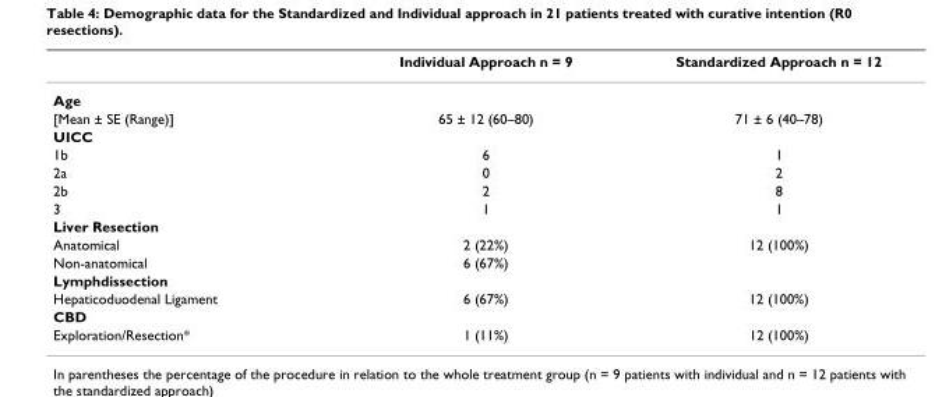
<table><thead><tr><td></td><td>Individual Approach n = 9</td><td>Standardized Approach n = 12</td></tr></thead><tbody><tr><td colspan="3">Age</td></tr><tr><td>[Mean ± SE (Range)]</td><td>65 ± 12 (60–80)</td><td>71 ± 6 (40–78)</td></tr><tr><td colspan="3">UICC</td></tr><tr><td>1b</td><td>6</td><td>1</td></tr><tr><td>2a</td><td>0</td><td>2</td></tr><tr><td>2b</td><td>2</td><td>8</td></tr><tr><td>3</td><td>1</td><td>1</td></tr><tr><td colspan="3">Liver Resection</td></tr><tr><td>Anatomical</td><td>2 (22%)</td><td>12 (100%)</td></tr><tr><td>Non-anatomical</td><td>6 (67%)</td><td></td></tr><tr><td colspan="3">Lymphdissection</td></tr><tr><td>Hepaticoduodenal Ligament</td><td>6 (67%)</td><td>12 (100%)</td></tr><tr><td colspan="3">CBD</td></tr><tr><td>Exploration/Resection*</td><td>1 (11%)</td><td>12 (100%)</td></tr></tbody></table>